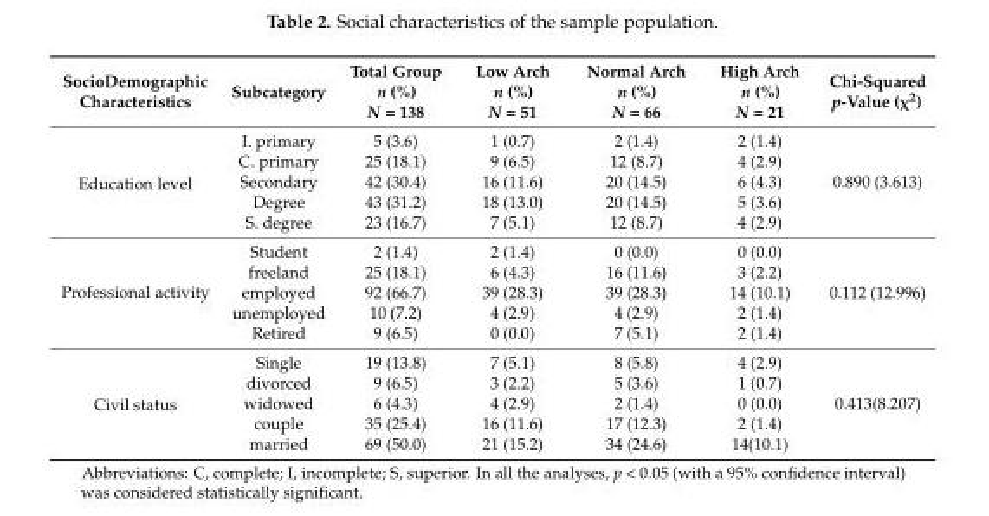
<table><thead><tr><td>SocioDemographic Characteristics</td><td>Subcategory</td><td>Total Group n (%) N = 138</td><td>Low Arch n (%) N = 51</td><td>Normal Arch n (%) N = 66</td><td>High Arch n (%) N = 21</td><td>Chi-Squared p-Value (χ<sup>2</sup>)</td></tr></thead><tbody><tr><td rowspan="5">Education level</td><td>I. primary</td><td>5 (3.6)</td><td>1 (0.7)</td><td>2 (1.4)</td><td>2 (1.4)</td><td rowspan="5">0.890 (3.613)</td></tr><tr><td>C. primary</td><td>25 (18.1)</td><td>9 (6.5)</td><td>12 (8.7)</td><td>4 (2.9)</td></tr><tr><td>Secondary</td><td>42 (30.4)</td><td>16 (11.6)</td><td>20 (14.5)</td><td>6 (4.3)</td></tr><tr><td>Degree</td><td>43 (31.2)</td><td>18 (13.0)</td><td>20 (14.5)</td><td>5 (3.6)</td></tr><tr><td>S. degree</td><td>23 (16.7)</td><td>7 (5.1)</td><td>12 (8.7)</td><td>4 (2.9)</td></tr><tr><td rowspan="5">Professional activity</td><td>Student</td><td>2 (1.4)</td><td>2 (1.4)</td><td>0 (0.0)</td><td>0 (0.0)</td><td rowspan="5">0.112 (12.996)</td></tr><tr><td>freeland</td><td>25 (18.1)</td><td>6 (4.3)</td><td>16 (11.6)</td><td>3 (2.2)</td></tr><tr><td>employed</td><td>92 (66.7)</td><td>39 (28.3)</td><td>39 (28.3)</td><td>14 (10.1)</td></tr><tr><td>unemployed</td><td>10 (7.2)</td><td>4 (2.9)</td><td>4 (2.9)</td><td>2 (1.4)</td></tr><tr><td>Retired</td><td>9 (6.5)</td><td>0 (0.0)</td><td>7 (5.1)</td><td>2 (1.4)</td></tr><tr><td rowspan="5">Civil status</td><td>Single</td><td>19 (13.8)</td><td>7 (5.1)</td><td>8 (5.8)</td><td>4 (2.9)</td><td rowspan="5">0.413(8.207)</td></tr><tr><td>divorced</td><td>9 (6.5)</td><td>3 (2.2)</td><td>5 (3.6)</td><td>1 (0.7)</td></tr><tr><td>widowed</td><td>6 (4.3)</td><td>4 (2.9)</td><td>2 (1.4)</td><td>0 (0.0)</td></tr><tr><td>couple</td><td>35 (25.4)</td><td>16 (11.6)</td><td>17 (12.3)</td><td>2 (1.4)</td></tr><tr><td>married</td><td>69 (50.0)</td><td>21 (15.2)</td><td>34 (24.6)</td><td>14(10.1)</td></tr></tbody></table>